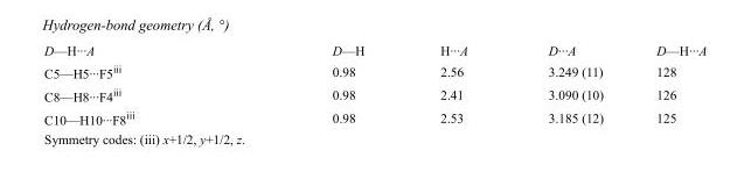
<table><tbody><tr><td>D—H···A</td><td>D—H</td><td>H···A</td><td>D···A</td><td>D—H···A</td></tr><tr><td>C5—H5···F5<sup>iii</sup></td><td>0.98</td><td>2.56</td><td>3.249 (11)</td><td>128</td></tr><tr><td>C8—H8···F4<sup>iii</sup></td><td>0.98</td><td>2.41</td><td>3.090 (10)</td><td>126</td></tr><tr><td>C10—H10···F8<sup>iii</sup></td><td>0.98</td><td>2.53</td><td>3.185 (12)</td><td>125</td></tr></tbody></table>